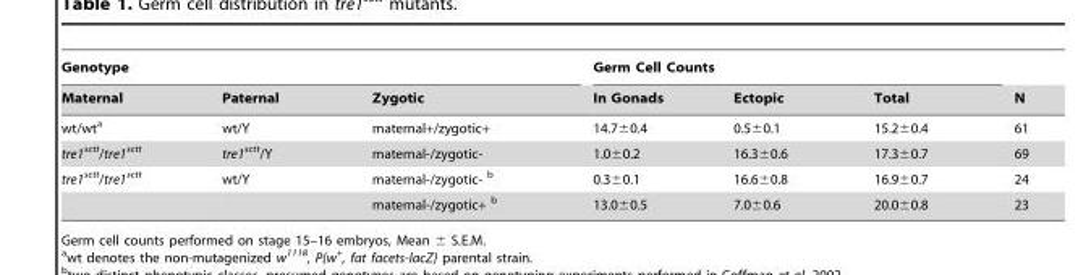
<table><thead><tr><td colspan="3">Genotype</td><td colspan="3">Germ Cell Counts</td><td rowspan="2">N</td></tr><tr><td>Maternal</td><td>Paternal</td><td>Zygotic</td><td>In Gonads</td><td>Ectopic</td><td>Total</td></tr></thead><tbody><tr><td>wt/wt<sup>a</sup></td><td>wt/Y</td><td>maternal+/zygotic+</td><td>14.7±0.4</td><td>0.5±0.1</td><td>15.2±0.4</td><td>61</td></tr><tr><td>tre1<sup>sctt</sup>/tre1<sup>sctt</sup></td><td>tre1<sup>sctt</sup>/Y</td><td>maternal-/zygotic-</td><td>1.0±0.2</td><td>16.3±0.6</td><td>17.3±0.7</td><td>69</td></tr><tr><td rowspan="2">tre1<sup>sctt</sup>/tre1<sup>sctt</sup></td><td>wt/Y</td><td>maternal-/zygotic- b</td><td>0.3±0.1</td><td>16.6±0.8</td><td>16.9±0.7</td><td>24</td></tr><tr><td></td><td>maternal-/zygotic+ b</td><td>13.0±0.5</td><td>7.0±0.6</td><td>20.0±0.8</td><td>23</td></tr></tbody></table>